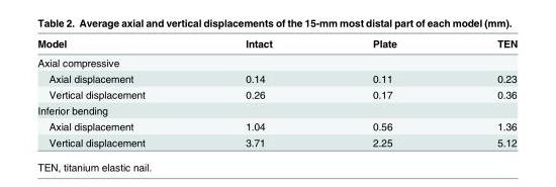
<table><thead><tr><td>Model</td><td>Intact</td><td>Plate</td><td>TEN</td></tr></thead><tbody><tr><td colspan="4">Axial compressive</td></tr><tr><td>Axial displacement</td><td>0.14</td><td>0.11</td><td>0.23</td></tr><tr><td>Vertical displacement</td><td>0.26</td><td>0.17</td><td>0.36</td></tr><tr><td colspan="4">Inferior bending</td></tr><tr><td>Axial displacement</td><td>1.04</td><td>0.56</td><td>1.36</td></tr><tr><td>Vertical displacement</td><td>3.71</td><td>2.25</td><td>5.12</td></tr></tbody></table>